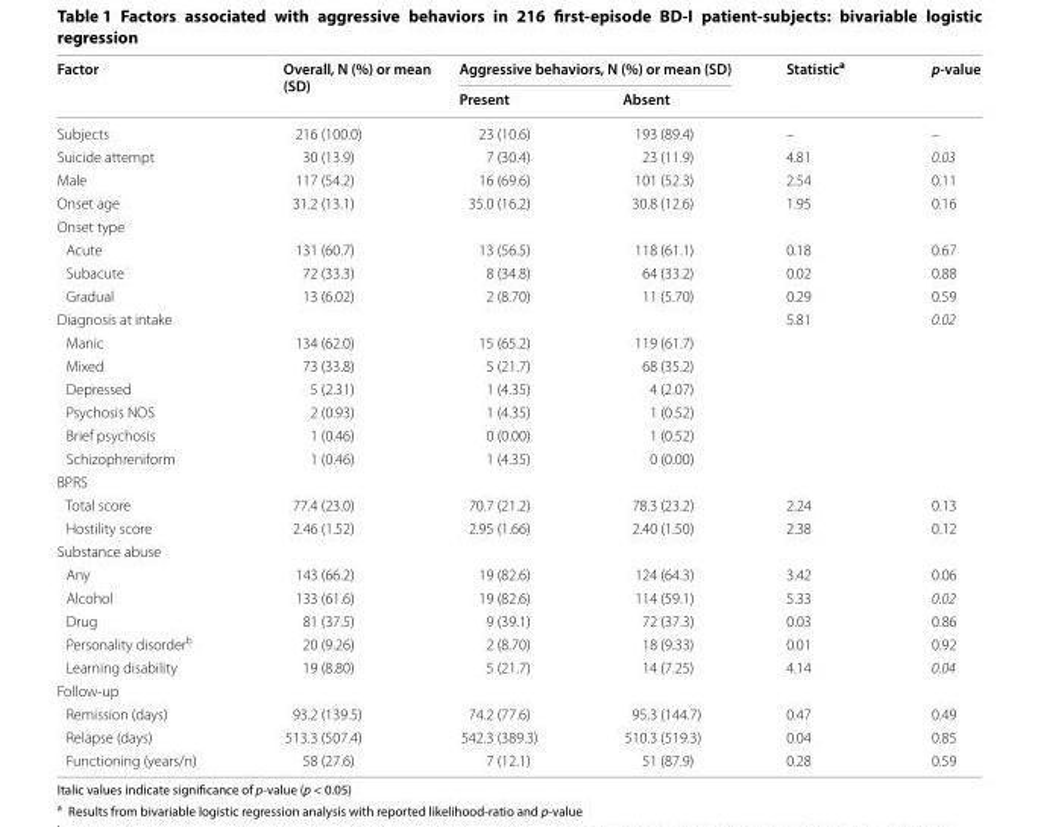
<table><thead><tr><td rowspan="2">Factor</td><td rowspan="2">Overall, N (%) or mean (SD)</td><td colspan="2">Aggressive behaviors, N (%) or mean (SD)</td><td rowspan="2">Statistic<sup>a</sup></td><td rowspan="2">p-value</td></tr><tr><td>Present</td><td>Absent</td></tr></thead><tbody><tr><td>Subjects</td><td>216 (100.0)</td><td>23 (10.6)</td><td>193 (89.4)</td><td>–</td><td>–</td></tr><tr><td>Suicide attempt</td><td>30 (13.9)</td><td>7 (30.4)</td><td>23 (11.9)</td><td>4.81</td><td>0.03</td></tr><tr><td>Male</td><td>117 (54.2)</td><td>16 (69.6)</td><td>101 (52.3)</td><td>2.54</td><td>0.11</td></tr><tr><td>Onset age</td><td>31.2 (13.1)</td><td>35.0 (16.2)</td><td>30.8 (12.6)</td><td>1.95</td><td>0.16</td></tr><tr><td colspan="6">Onset type</td></tr><tr><td>Acute</td><td>131 (60.7)</td><td>13 (56.5)</td><td>118 (61.1)</td><td>0.18</td><td>0.67</td></tr><tr><td>Subacute</td><td>72 (33.3)</td><td>8 (34.8)</td><td>64 (33.2)</td><td>0.02</td><td>0.88</td></tr><tr><td>Gradual</td><td>13 (6.02)</td><td>2 (8.70)</td><td>11 (5.70)</td><td>0.29</td><td>0.59</td></tr><tr><td colspan="4">Diagnosis at intake</td><td>5.81</td><td>0.02</td></tr><tr><td>Manic</td><td>134 (62.0)</td><td>15 (65.2)</td><td>119 (61.7)</td><td></td><td></td></tr><tr><td>Mixed</td><td>73 (33.8)</td><td>5 (21.7)</td><td>68 (35.2)</td><td></td><td></td></tr><tr><td>Depressed</td><td>5 (2.31)</td><td>1 (4.35)</td><td>4 (2.07)</td><td></td><td></td></tr><tr><td>Psychosis NOS</td><td>2 (0.93)</td><td>1 (4.35)</td><td>1 (0.52)</td><td></td><td></td></tr><tr><td>Brief psychosis</td><td>1 (0.46)</td><td>0 (0.00)</td><td>1 (0.52)</td><td></td><td></td></tr><tr><td>Schizophreniform</td><td>1 (0.46)</td><td>1 (4.35)</td><td>0 (0.00)</td><td></td><td></td></tr><tr><td colspan="6">BPRS</td></tr><tr><td>Total score</td><td>77.4 (23.0)</td><td>70.7 (21.2)</td><td>78.3 (23.2)</td><td>2.24</td><td>0.13</td></tr><tr><td>Hostility score</td><td>2.46 (1.52)</td><td>2.95 (1.66)</td><td>2.40 (1.50)</td><td>2.38</td><td>0.12</td></tr><tr><td colspan="6">Substance abuse</td></tr><tr><td>Any</td><td>143 (66.2)</td><td>19 (82.6)</td><td>124 (64.3)</td><td>3.42</td><td>0.06</td></tr><tr><td>Alcohol</td><td>133 (61.6)</td><td>19 (82.6)</td><td>114 (59.1)</td><td>5.33</td><td>0.02</td></tr><tr><td>Drug</td><td>81 (37.5)</td><td>9 (39.1)</td><td>72 (37.3)</td><td>0.03</td><td>0.86</td></tr><tr><td>Personality disorder<sup>b</sup></td><td>20 (9.26)</td><td>2 (8.70)</td><td>18 (9.33)</td><td>0.01</td><td>0.92</td></tr><tr><td>Learning disability</td><td>19 (8.80)</td><td>5 (21.7)</td><td>14 (7.25)</td><td>4.14</td><td>0.04</td></tr><tr><td colspan="6">Follow‑up</td></tr><tr><td>Remission (days)</td><td>93.2 (139.5)</td><td>74.2 (77.6)</td><td>95.3 (144.7)</td><td>0.47</td><td>0.49</td></tr><tr><td>Relapse (days)</td><td>513.3 (507.4)</td><td>542.3 (389.3)</td><td>510.3 (519.3)</td><td>0.04</td><td>0.85</td></tr><tr><td>Functioning (years/n)</td><td>58 (27.6)</td><td>7 (12.1)</td><td>51 (87.9)</td><td>0.28</td><td>0.59</td></tr></tbody></table>